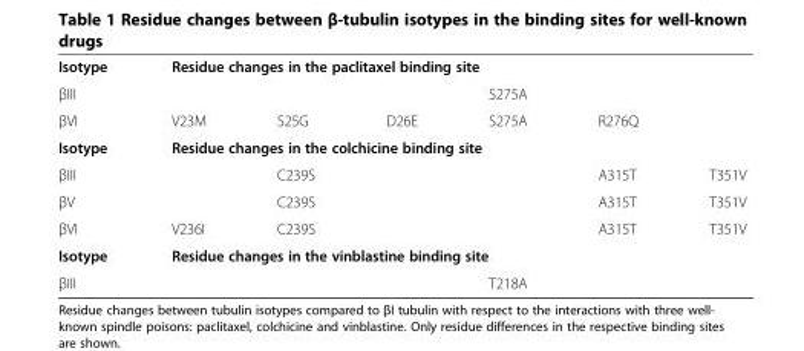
<table><tbody><tr><td>Isotype</td><td colspan="6">Residue changes in the paclitaxel binding site</td></tr><tr><td>βIII</td><td></td><td></td><td></td><td>S275A</td><td></td><td></td></tr><tr><td>βVI</td><td>V23M</td><td>S25G</td><td>D26E</td><td>S275A</td><td>R276Q</td><td></td></tr><tr><td>Isotype</td><td colspan="6">Residue changes in the colchicine binding site</td></tr><tr><td>βIII</td><td></td><td>C239S</td><td></td><td></td><td>A315T</td><td>T351V</td></tr><tr><td>βV</td><td></td><td>C239S</td><td></td><td></td><td>A315T</td><td>T351V</td></tr><tr><td>βVI</td><td>V236I</td><td>C239S</td><td></td><td></td><td>A315T</td><td>T351V</td></tr><tr><td>Isotype</td><td colspan="6">Residue changes in the vinblastine binding site</td></tr><tr><td>βIII</td><td></td><td></td><td></td><td>T218A</td><td></td><td></td></tr></tbody></table>